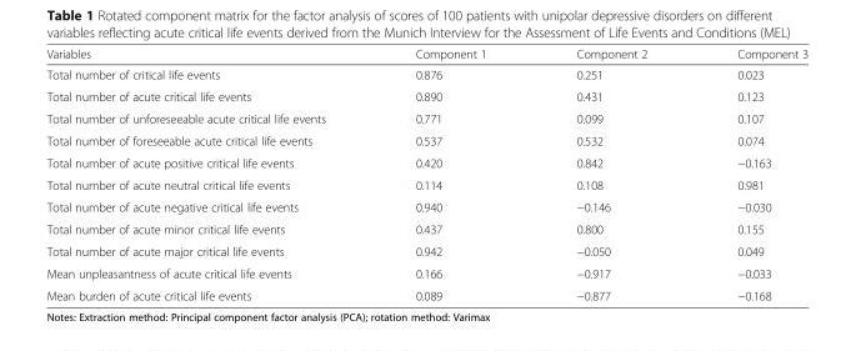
<table><thead><tr><td>Variables</td><td>Component 1</td><td>Component 2</td><td>Component 3</td></tr></thead><tbody><tr><td>Total number of critical life events</td><td>0.876</td><td>0.251</td><td>0.023</td></tr><tr><td>Total number of acute critical life events</td><td>0.890</td><td>0.431</td><td>0.123</td></tr><tr><td>Total number of unforeseeable acute critical life events</td><td>0.771</td><td>0.099</td><td>0.107</td></tr><tr><td>Total number of foreseeable acute critical life events</td><td>0.537</td><td>0.532</td><td>0.074</td></tr><tr><td>Total number of acute positive critical life events</td><td>0.420</td><td>0.842</td><td>−0.163</td></tr><tr><td>Total number of acute neutral critical life events</td><td>0.114</td><td>0.108</td><td>0.981</td></tr><tr><td>Total number of acute negative critical life events</td><td>0.940</td><td>−0.146</td><td>−0.030</td></tr><tr><td>Total number of acute minor critical life events</td><td>0.437</td><td>0.800</td><td>0.155</td></tr><tr><td>Total number of acute major critical life events</td><td>0.942</td><td>−0.050</td><td>0.049</td></tr><tr><td>Mean unpleasantness of acute critical life events</td><td>0.166</td><td>−0.917</td><td>−0.033</td></tr><tr><td>Mean burden of acute critical life events</td><td>0.089</td><td>−0.877</td><td>−0.168</td></tr></tbody></table>